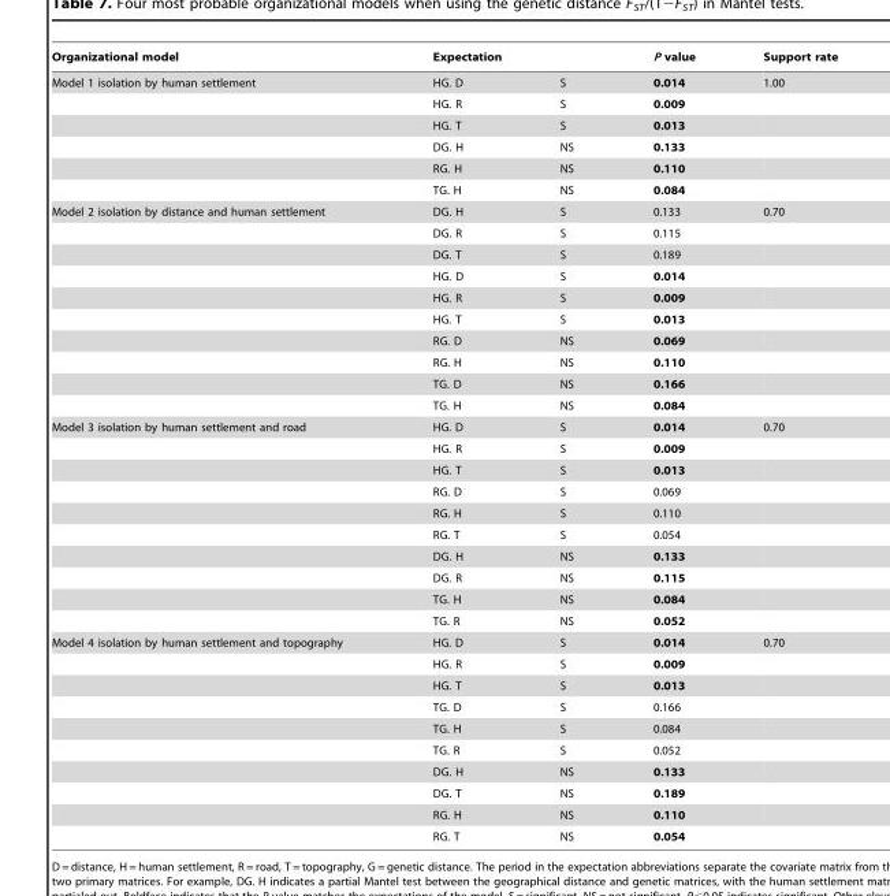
<table><thead><tr><td rowspan="2">Organizational model Model 1 isolation by human settlement</td><td colspan="2">Expectation</td><td rowspan="2">P value 0.014</td><td rowspan="2">Support rate 1.00</td></tr><tr><td>HG. D</td><td>S</td></tr></thead><tbody><tr><td></td><td>HG. R</td><td>S</td><td>0.009</td><td></td></tr><tr><td></td><td>HG. T</td><td>S</td><td>0.013</td><td></td></tr><tr><td></td><td>DG. H</td><td>NS</td><td>0.133</td><td></td></tr><tr><td></td><td>RG. H</td><td>NS</td><td>0.110</td><td></td></tr><tr><td></td><td>TG. H</td><td>NS</td><td>0.084</td><td></td></tr><tr><td rowspan="10">Model 2 isolation by distance and human settlement</td><td>DG. H</td><td>S</td><td>0.133</td><td>0.70</td></tr><tr><td>DG. R</td><td>S</td><td>0.115</td><td></td></tr><tr><td>DG. T</td><td>S</td><td>0.189</td><td></td></tr><tr><td>HG. D</td><td>S</td><td>0.014</td><td></td></tr><tr><td>HG. R</td><td>S</td><td>0.009</td><td></td></tr><tr><td>HG. T</td><td>S</td><td>0.013</td><td></td></tr><tr><td>RG. D</td><td>NS</td><td>0.069</td><td></td></tr><tr><td>RG. H</td><td>NS</td><td>0.110</td><td></td></tr><tr><td>TG. D</td><td>NS</td><td>0.166</td><td></td></tr><tr><td>TG. H</td><td>NS</td><td>0.084</td><td></td></tr><tr><td rowspan="10">Model 3 isolation by human settlement and road</td><td>HG. D</td><td>S</td><td>0.014</td><td>0.70</td></tr><tr><td>HG. R</td><td>S</td><td>0.009</td><td></td></tr><tr><td>HG. T</td><td>S</td><td>0.013</td><td></td></tr><tr><td>RG. D</td><td>S</td><td>0.069</td><td></td></tr><tr><td>RG. H</td><td>S</td><td>0.110</td><td></td></tr><tr><td>RG. T</td><td>S</td><td>0.054</td><td></td></tr><tr><td>DG. H</td><td>NS</td><td>0.133</td><td></td></tr><tr><td>DG. R</td><td>NS</td><td>0.115</td><td></td></tr><tr><td>TG. H</td><td>NS</td><td>0.084</td><td></td></tr><tr><td>TG. R</td><td>NS</td><td>0.052</td><td></td></tr><tr><td rowspan="10">Model 4 isolation by human settlement and topography</td><td>HG. D</td><td>S</td><td>0.014</td><td>0.70</td></tr><tr><td>HG. R</td><td>S</td><td>0.009</td><td></td></tr><tr><td>HG. T</td><td>S</td><td>0.013</td><td></td></tr><tr><td>TG. D</td><td>S</td><td>0.166</td><td></td></tr><tr><td>TG. H</td><td>S</td><td>0.084</td><td></td></tr><tr><td>TG. R</td><td>S</td><td>0.052</td><td></td></tr><tr><td>DG. H</td><td>NS</td><td>0.133</td><td></td></tr><tr><td>DG. T</td><td>NS</td><td>0.189</td><td></td></tr><tr><td>RG. H</td><td>NS</td><td>0.110</td><td></td></tr><tr><td>RG. T</td><td>NS</td><td>0.054</td><td></td></tr></tbody></table>